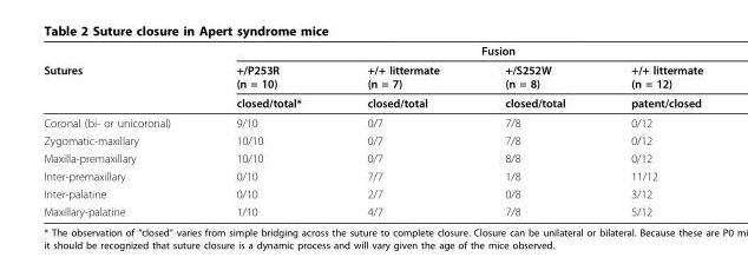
<table><thead><tr><td rowspan="3">Sutures</td><td colspan="4">Fusion</td></tr><tr><td rowspan="2">+/P253R (n = 10) closed/total*</td><td rowspan="2">+/+ littermate (n = 7) closed/total</td><td rowspan="2">+/S252W (n = 8) closed/total</td><td rowspan="2">+/+ littermate (n = 12) patent/closed</td></tr><tr></tr></thead><tbody><tr><td>Coronal (bi- or unicoronal)</td><td>9/10</td><td>0/7</td><td>7/8</td><td>0/12</td></tr><tr><td>Zygomatic-maxillary</td><td>10/10</td><td>0/7</td><td>7/8</td><td>0/12</td></tr><tr><td>Maxilla-premaxillary</td><td>10/10</td><td>0/7</td><td>8/8</td><td>0/12</td></tr><tr><td>Inter-premaxillary</td><td>0/10</td><td>7/7</td><td>1/8</td><td>11/12</td></tr><tr><td>Inter-palatine</td><td>0/10</td><td>2/7</td><td>0/8</td><td>3/12</td></tr><tr><td>Maxillary-palatine</td><td>1/10</td><td>4/7</td><td>7/8</td><td>5/12</td></tr></tbody></table>